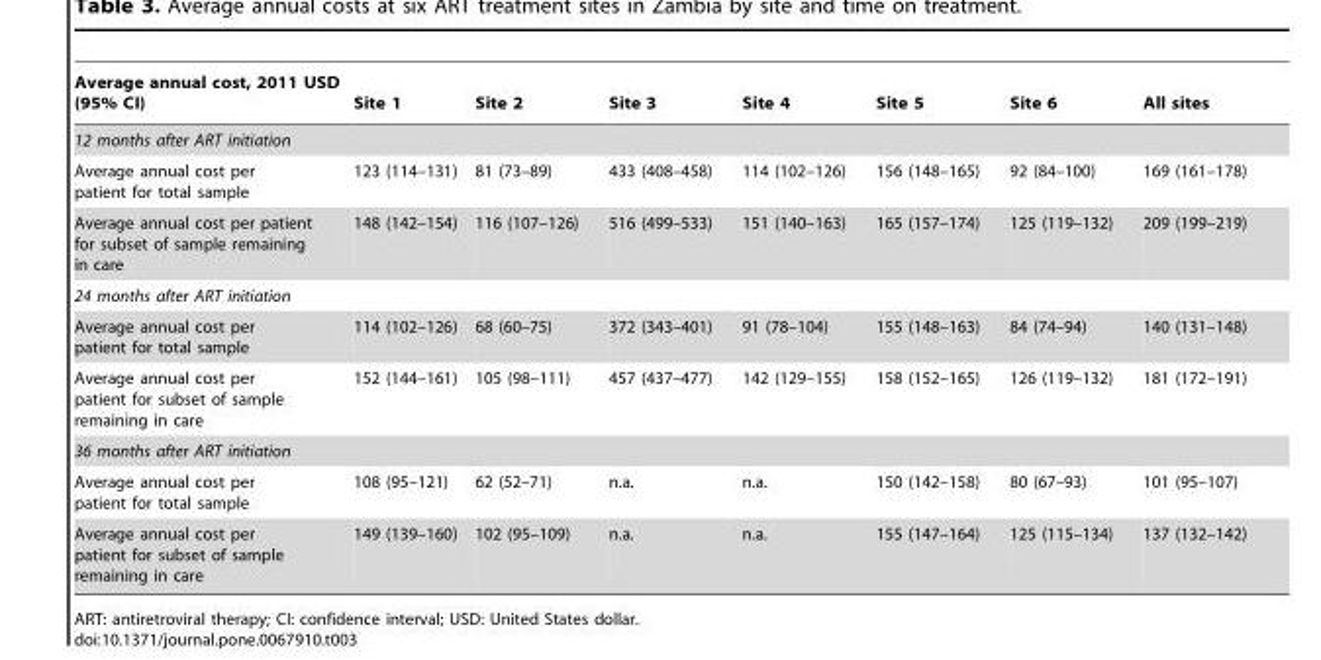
<table><thead><tr><td>Average annual cost, 2011 USD (95% CI)</td><td>Site 1</td><td>Site 2</td><td>Site 3</td><td>Site 4</td><td>Site 5</td><td>Site 6</td><td>All sites</td></tr></thead><tbody><tr><td colspan="8">12 months after ART initiation</td></tr><tr><td>Average annual cost per patient for total sample</td><td>123 (114–131)</td><td>81 (73–89)</td><td>433 (408–458)</td><td>114 (102–126)</td><td>156 (148–165)</td><td>92 (84–100)</td><td>169 (161–178)</td></tr><tr><td>Average annual cost per patient for subset of sample remaining in care</td><td>148 (142–154)</td><td>116 (107–126)</td><td>516 (499–533)</td><td>151 (140–163)</td><td>165 (157–174)</td><td>125 (119–132)</td><td>209 (199–219)</td></tr><tr><td colspan="8">24 months after ART initiation</td></tr><tr><td>Average annual cost per patient for total sample</td><td>114 (102–126)</td><td>68 (60–75)</td><td>372 (343–401)</td><td>91 (78–104)</td><td>155 (148–163)</td><td>84 (74–94)</td><td>140 (131–148)</td></tr><tr><td>Average annual cost per patient for subset of sample remaining in care</td><td>152 (144–161)</td><td>105 (98–111)</td><td>457 (437–477)</td><td>142 (129–155)</td><td>158 (152–165)</td><td>126 (119–132)</td><td>181 (172–191)</td></tr><tr><td colspan="8">36 months after ART initiation</td></tr><tr><td>Average annual cost per patient for total sample</td><td>108 (95–121)</td><td>62 (52–71)</td><td>n.a.</td><td>n.a.</td><td>150 (142–158)</td><td>80 (67–93)</td><td>101 (95–107)</td></tr><tr><td>Average annual cost per patient for subset of sample remaining in care</td><td>149 (139–160)</td><td>102 (95–109)</td><td>n.a.</td><td>n.a.</td><td>155 (147–164)</td><td>125 (115–134)</td><td>137 (132–142)</td></tr></tbody></table>